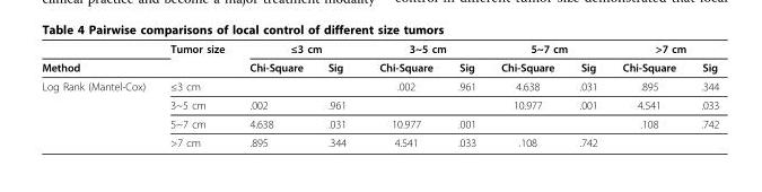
<table><thead><tr><td rowspan="2">Method</td><td rowspan="2">Tumor size</td><td colspan="2">≤3 cm</td><td colspan="2">3~5 cm</td><td colspan="2">5~7 cm</td><td colspan="2">&gt;7 cm</td></tr><tr><td>Chi-Square</td><td>Sig</td><td>Chi-Square</td><td>Sig</td><td>Chi-Square</td><td>Sig</td><td>Chi-Square</td><td>Sig</td></tr></thead><tbody><tr><td rowspan="4">Log Rank (Mantel-Cox)</td><td>≤3 cm</td><td></td><td></td><td>.002</td><td>.961</td><td>4.638</td><td>.031</td><td>.895</td><td>.344</td></tr><tr><td>3~5 cm</td><td>.002</td><td>.961</td><td></td><td></td><td>10.977</td><td>.001</td><td>4.541</td><td>.033</td></tr><tr><td>5~7 cm</td><td>4.638</td><td>.031</td><td>10.977</td><td>.001</td><td></td><td></td><td>.108</td><td>.742</td></tr><tr><td>&gt;7 cm</td><td>.895</td><td>.344</td><td>4.541</td><td>.033</td><td>.108</td><td>.742</td><td></td><td></td></tr></tbody></table>